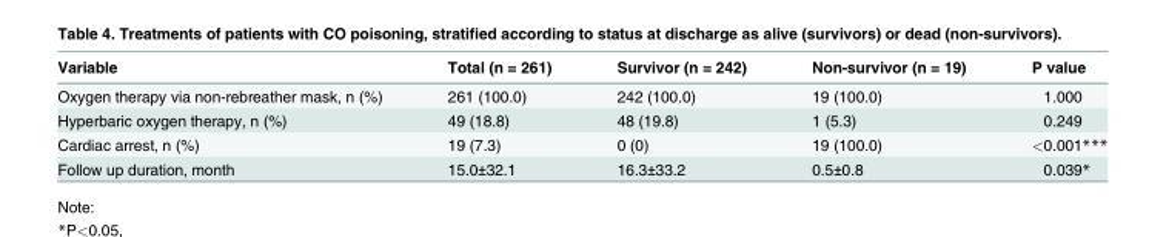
<table><thead><tr><td>Variable</td><td>Total (n = 261)</td><td>Survivor (n = 242)</td><td>Non-survivor (n = 19)</td><td>P value</td></tr></thead><tbody><tr><td>Oxygen therapy via non-rebreather mask, n (%)</td><td>261 (100.0)</td><td>242 (100.0)</td><td>19 (100.0)</td><td>1.000</td></tr><tr><td>Hyperbaric oxygen therapy, n (%)</td><td>49 (18.8)</td><td>48 (19.8)</td><td>1 (5.3)</td><td>0.249</td></tr><tr><td>Cardiac arrest, n (%)</td><td>19 (7.3)</td><td>0 (0)</td><td>19 (100.0)</td><td>&lt;0.001***</td></tr><tr><td>Follow up duration, month</td><td>15.0±32.1</td><td>16.3±33.2</td><td>0.5±0.8</td><td>0.039*</td></tr></tbody></table>